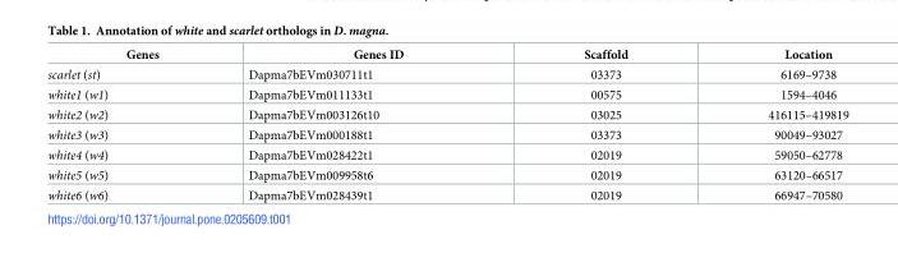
<table><thead><tr><td>Genes</td><td>Genes ID</td><td>Scaffold</td><td>Location</td></tr></thead><tbody><tr><td>scarlet (st)</td><td>Dapma7bEVm030711t1</td><td>03373</td><td>6169–9738</td></tr><tr><td>white1 (w1)</td><td>Dapma7bEVm011133t1</td><td>00575</td><td>1594–4046</td></tr><tr><td>white2 (w2)</td><td>Dapma7bEVm003126t10</td><td>03025</td><td>416115–419819</td></tr><tr><td>white3 (w3)</td><td>Dapma7bEVm000188t1</td><td>03373</td><td>90049–93027</td></tr><tr><td>white4 (w4)</td><td>Dapma7bEVm028422t1</td><td>02019</td><td>59050–62778</td></tr><tr><td>white5 (w5)</td><td>Dapma7bEVm009958t6</td><td>02019</td><td>63120–66517</td></tr><tr><td>white6 (w6)</td><td>Dapma7bEVm028439t1</td><td>02019</td><td>66947–70580</td></tr></tbody></table>